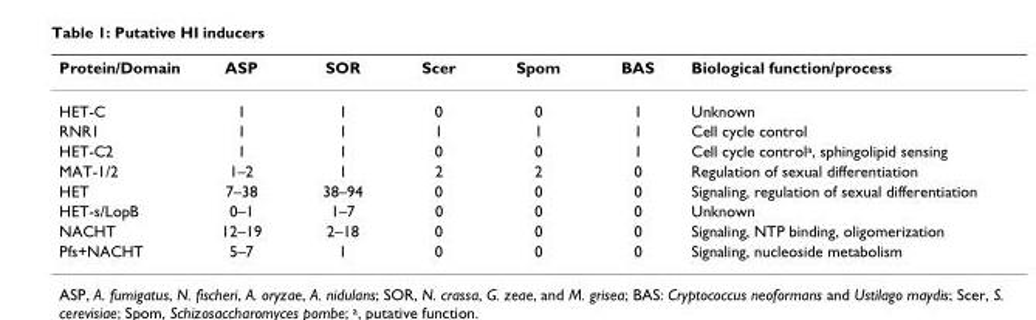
<table><thead><tr><td>Protein/Domain</td><td>ASP</td><td>SOR</td><td>Scer</td><td>Spom</td><td>BAS</td><td>Biological function/process</td></tr></thead><tbody><tr><td>HET-C</td><td>1</td><td>1</td><td>0</td><td>0</td><td>1</td><td>Unknown</td></tr><tr><td>RNR1</td><td>1</td><td>1</td><td>1</td><td>1</td><td>1</td><td>Cell cycle control</td></tr><tr><td>HET-C2</td><td>1</td><td>1</td><td>0</td><td>0</td><td>1</td><td>Cell cycle control<sup>a</sup>, sphingolipid sensing</td></tr><tr><td>MAT-1/2</td><td>1–2</td><td>1</td><td>2</td><td>2</td><td>0</td><td>Regulation of sexual differentiation</td></tr><tr><td>HET</td><td>7–38</td><td>38–94</td><td>0</td><td>0</td><td>0</td><td>Signaling, regulation of sexual differentiation</td></tr><tr><td>HET-s/LopB</td><td>0–1</td><td>1–7</td><td>0</td><td>0</td><td>0</td><td>Unknown</td></tr><tr><td>NACHT</td><td>12–19</td><td>2–18</td><td>0</td><td>0</td><td>0</td><td>Signaling, NTP binding, oligomerization</td></tr><tr><td>Pfs+NACHT</td><td>5–7</td><td>1</td><td>0</td><td>0</td><td>0</td><td>Signaling, nucleoside metabolism</td></tr></tbody></table>